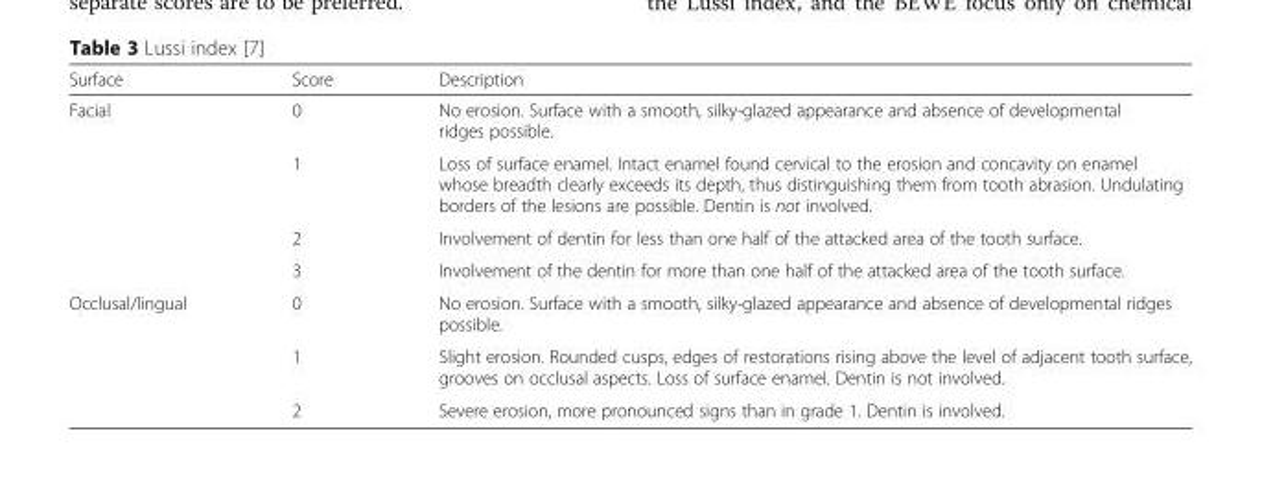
<table><thead><tr><td>Surface</td><td>Score</td><td>Description</td></tr></thead><tbody><tr><td rowspan="4">Facial</td><td>0</td><td>No erosion. Surface with a smooth, silky-glazed appearance and absence of developmental ridges possible.</td></tr><tr><td>1</td><td>Loss of surface enamel. Intact enamel found cervical to the erosion and concavity on enamel whose breadth clearly exceeds its depth, thus distinguishing them from tooth abrasion. Undulating borders of the lesions are possible. Dentin is not involved.</td></tr><tr><td>2</td><td>Involvement of dentin for less than one half of the attacked area of the tooth surface.</td></tr><tr><td>3</td><td>Involvement of the dentin for more than one half of the attacked area of the tooth surface.</td></tr><tr><td rowspan="3">Occlusal/lingual</td><td>0</td><td>No erosion. Surface with a smooth, silky-glazed appearance and absence of developmental ridges possible.</td></tr><tr><td>1</td><td>Slight erosion. Rounded cusps, edges of restorations rising above the level of adjacent tooth surface, grooves on occlusal aspects. Loss of surface enamel. Dentin is not involved.</td></tr><tr><td>2</td><td>Severe erosion, more pronounced signs than in grade 1. Dentin is involved.</td></tr></tbody></table>